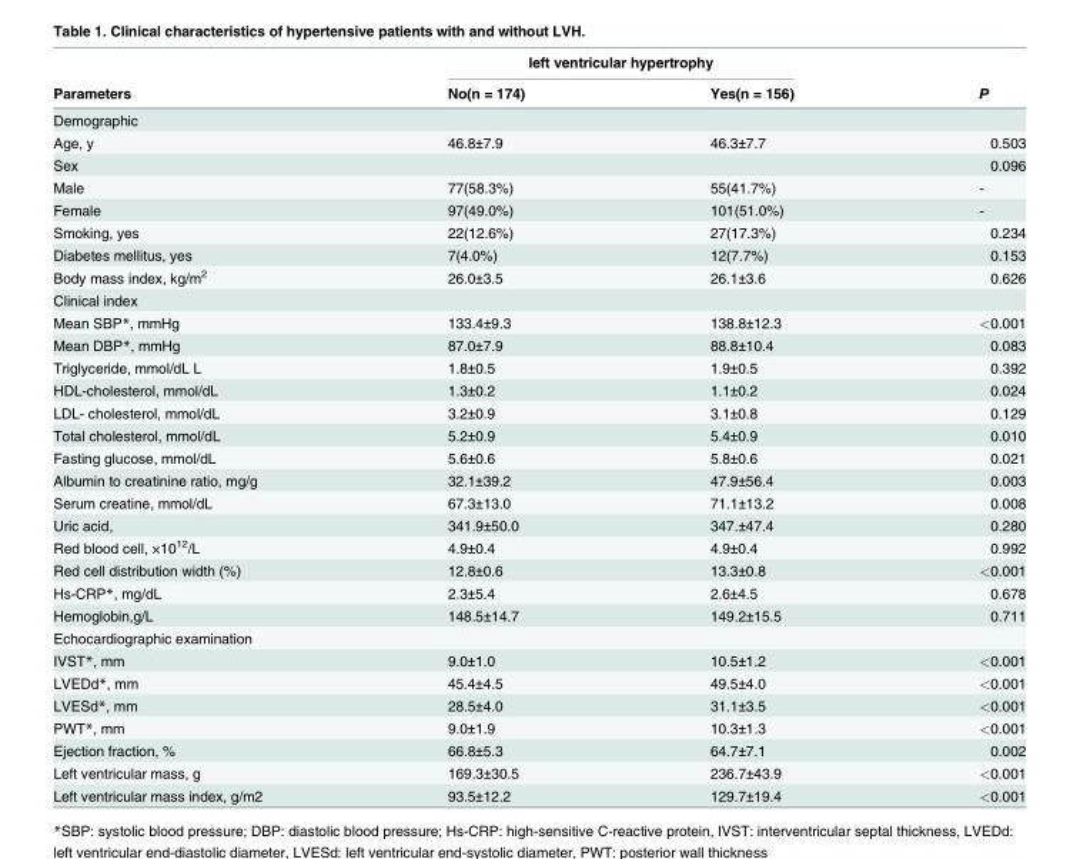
<table><thead><tr><td rowspan="2">Parameters</td><td colspan="2">left ventricular hypertrophy</td><td rowspan="2">P</td></tr><tr><td>No(n = 174)</td><td>Yes(n = 156)</td></tr></thead><tbody><tr><td colspan="4">Demographic</td></tr><tr><td>Age, y</td><td>46.8±7.9</td><td>46.3±7.7</td><td>0.503</td></tr><tr><td>Sex</td><td></td><td></td><td>0.096</td></tr><tr><td>Male</td><td>77(58.3%)</td><td>55(41.7%)</td><td>-</td></tr><tr><td>Female</td><td>97(49.0%)</td><td>101(51.0%)</td><td>-</td></tr><tr><td>Smoking, yes</td><td>22(12.6%)</td><td>27(17.3%)</td><td>0.234</td></tr><tr><td>Diabetes mellitus, yes</td><td>7(4.0%)</td><td>12(7.7%)</td><td>0.153</td></tr><tr><td>Body mass index, kg/m<sup>2</sup></td><td>26.0±3.5</td><td>26.1±3.6</td><td>0.626</td></tr><tr><td colspan="4">Clinical index</td></tr><tr><td>Mean SBP*, mmHg</td><td>133.4±9.3</td><td>138.8±12.3</td><td>&lt;0.001</td></tr><tr><td>Mean DBP*, mmHg</td><td>87.0±7.9</td><td>88.8±10.4</td><td>0.083</td></tr><tr><td>Triglyceride, mmol/dL L</td><td>1.8±0.5</td><td>1.9±0.5</td><td>0.392</td></tr><tr><td>HDL-cholesterol, mmol/dL</td><td>1.3±0.2</td><td>1.1±0.2</td><td>0.024</td></tr><tr><td>LDL- cholesterol, mmol/dL</td><td>3.2±0.9</td><td>3.1±0.8</td><td>0.129</td></tr><tr><td>Total cholesterol, mmol/dL</td><td>5.2±0.9</td><td>5.4±0.9</td><td>0.010</td></tr><tr><td>Fasting glucose, mmol/dL</td><td>5.6±0.6</td><td>5.8±0.6</td><td>0.021</td></tr><tr><td>Albumin to creatinine ratio, mg/g</td><td>32.1±39.2</td><td>47.9±56.4</td><td>0.003</td></tr><tr><td>Serum creatine, mmol/dL</td><td>67.3±13.0</td><td>71.1±13.2</td><td>0.008</td></tr><tr><td>Uric acid,</td><td>341.9±50.0</td><td>347.±47.4</td><td>0.280</td></tr><tr><td>Red blood cell, ×10<sup>12</sup>/L</td><td>4.9±0.4</td><td>4.9±0.4</td><td>0.992</td></tr><tr><td>Red cell distribution width (%)</td><td>12.8±0.6</td><td>13.3±0.8</td><td>&lt;0.001</td></tr><tr><td>Hs-CRP*, mg/dL</td><td>2.3±5.4</td><td>2.6±4.5</td><td>0.678</td></tr><tr><td>Hemoglobin,g/L</td><td>148.5±14.7</td><td>149.2±15.5</td><td>0.711</td></tr><tr><td colspan="4">Echocardiographic examination</td></tr><tr><td>IVST*, mm</td><td>9.0±1.0</td><td>10.5±1.2</td><td>&lt;0.001</td></tr><tr><td>LVEDd*, mm</td><td>45.4±4.5</td><td>49.5±4.0</td><td>&lt;0.001</td></tr><tr><td>LVESd*, mm</td><td>28.5±4.0</td><td>31.1±3.5</td><td>&lt;0.001</td></tr><tr><td>PWT*, mm</td><td>9.0±1.9</td><td>10.3±1.3</td><td>&lt;0.001</td></tr><tr><td>Ejection fraction, %</td><td>66.8±5.3</td><td>64.7±7.1</td><td>0.002</td></tr><tr><td>Left ventricular mass, g</td><td>169.3±30.5</td><td>236.7±43.9</td><td>&lt;0.001</td></tr><tr><td>Left ventricular mass index, g/m2</td><td>93.5±12.2</td><td>129.7±19.4</td><td>&lt;0.001</td></tr></tbody></table>